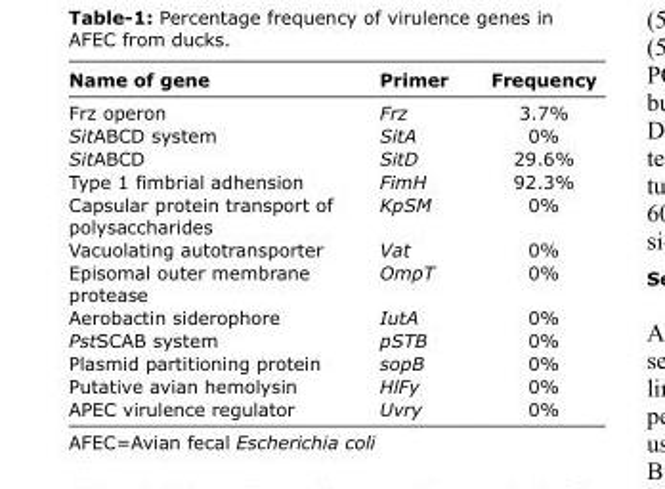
<table><thead><tr><td>Name of gene</td><td>Primer</td><td>Frequency</td></tr></thead><tbody><tr><td>Frz operon</td><td>Frz</td><td>3.7%</td></tr><tr><td>SitABCD system</td><td>SitA</td><td>0%</td></tr><tr><td>SitABCD</td><td>SitD</td><td>29.6%</td></tr><tr><td>Type 1 fimbrial adhension</td><td>FimH</td><td>92.3%</td></tr><tr><td>Capsular protein transport of polysaccharides</td><td>KpSM</td><td>0%</td></tr><tr><td>Vacuolating autotransporter</td><td>Vat</td><td>0%</td></tr><tr><td>Episomal outer membrane protease</td><td>OmpT</td><td>0%</td></tr><tr><td>Aerobactin siderophore</td><td>IutA</td><td>0%</td></tr><tr><td>PstSCAB system</td><td>pSTB</td><td>0%</td></tr><tr><td>Plasmid partitioning protein</td><td>sopB</td><td>0%</td></tr><tr><td>Putative avian hemolysin</td><td>HlFy</td><td>0%</td></tr><tr><td>APEC virulence regulator</td><td>Uvry</td><td>0%</td></tr></tbody></table>